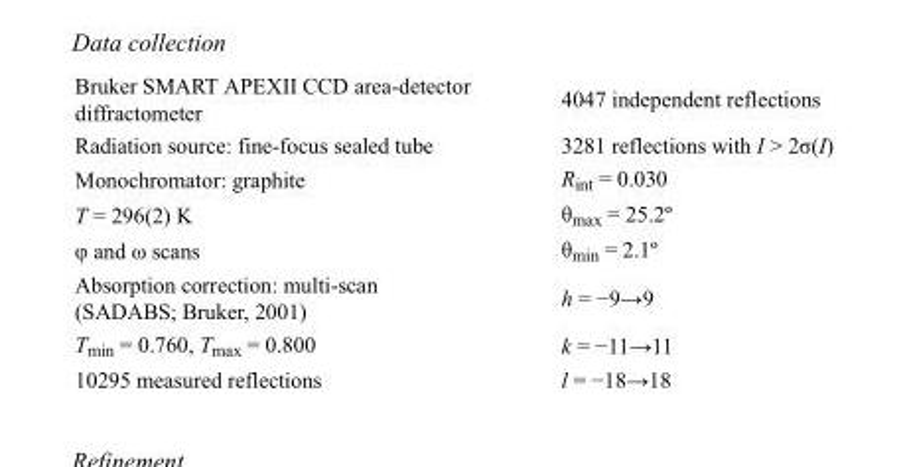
<table><tbody><tr><td>Bruker SMART APEXII CCD area-detector diffractometer</td><td>4047 independent reflections</td></tr><tr><td>Radiation source: fine-focus sealed tube</td><td>3281 reflections with I &gt; 2σ(I)</td></tr><tr><td>Monochromator: graphite</td><td>R<sub>int</sub> = 0.030</td></tr><tr><td>T = 296(2) K</td><td>θ<sub>max</sub> = 25.2º</td></tr><tr><td>φ and ω scans</td><td>θ<sub>min</sub> = 2.1º</td></tr><tr><td>Absorption correction: multi-scan (SADABS; Bruker, 2001)</td><td>h = −9→9</td></tr><tr><td>T<sub>min</sub> = 0.760, T<sub>max</sub> = 0.800</td><td>k = −11→11</td></tr><tr><td>10295 measured reflections</td><td>l = −18→18</td></tr></tbody></table>